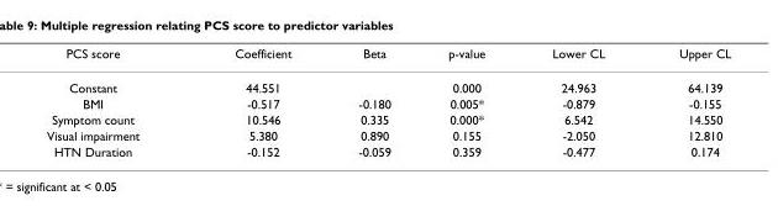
<table><thead><tr><td>PCS score</td><td>Coefficient</td><td>Beta</td><td>p-value</td><td>Lower CL</td><td>Upper CL</td></tr></thead><tbody><tr><td>Constant</td><td>44.551</td><td></td><td>0.000</td><td>24.963</td><td>64.139</td></tr><tr><td>BMI</td><td>-0.517</td><td>-0.180</td><td>0.005*</td><td>-0.879</td><td>-0.155</td></tr><tr><td>Symptom count</td><td>10.546</td><td>0.335</td><td>0.000*</td><td>6.542</td><td>14.550</td></tr><tr><td>Visual impairment</td><td>5.380</td><td>0.890</td><td>0.155</td><td>-2.050</td><td>12.810</td></tr><tr><td>HTN Duration</td><td>-0.152</td><td>-0.059</td><td>0.359</td><td>-0.477</td><td>0.174</td></tr></tbody></table>